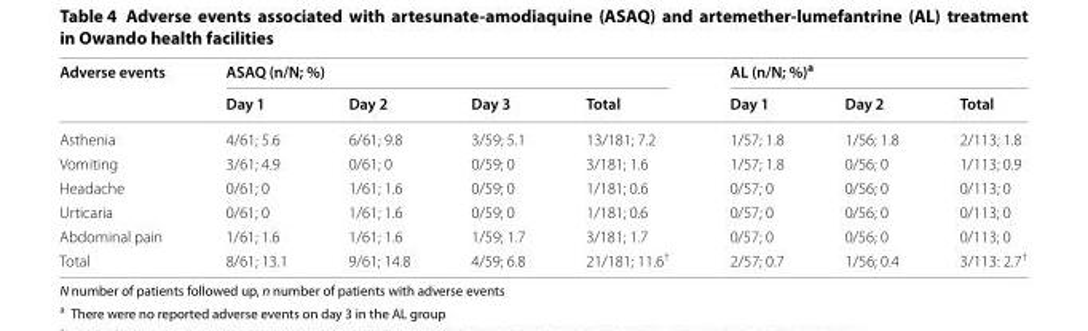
<table><thead><tr><td rowspan="2">Adverse events</td><td colspan="4">ASAQ (n/N; %)</td><td colspan="3">AL (n/N; %)<sup>a</sup></td></tr><tr><td>Day 1</td><td>Day 2</td><td>Day 3</td><td>Total</td><td>Day 1</td><td>Day 2</td><td>Total</td></tr></thead><tbody><tr><td>Asthenia</td><td>4/61; 5.6</td><td>6/61; 9.8</td><td>3/59; 5.1</td><td>13/181; 7.2</td><td>1/57; 1.8</td><td>1/56; 1.8</td><td>2/113; 1.8</td></tr><tr><td>Vomiting</td><td>3/61; 4.9</td><td>0/61; 0</td><td>0/59; 0</td><td>3/181; 1.6</td><td>1/57; 1.8</td><td>0/56; 0</td><td>1/113; 0.9</td></tr><tr><td>Headache</td><td>0/61; 0</td><td>1/61; 1.6</td><td>0/59; 0</td><td>1/181; 0.6</td><td>0/57; 0</td><td>0/56; 0</td><td>0/113; 0</td></tr><tr><td>Urticaria</td><td>0/61; 0</td><td>1/61; 1.6</td><td>0/59; 0</td><td>1/181; 0.6</td><td>0/57; 0</td><td>0/56; 0</td><td>0/113; 0</td></tr><tr><td>Abdominal pain</td><td>1/61; 1.6</td><td>1/61; 1.6</td><td>1/59; 1.7</td><td>3/181; 1.7</td><td>0/57; 0</td><td>0/56; 0</td><td>0/113; 0</td></tr><tr><td>Total</td><td>8/61; 13.1</td><td>9/61; 14.8</td><td>4/59; 6.8</td><td>21/181; 11.6<sup>†</sup></td><td>2/57; 0.7</td><td>1/56; 0.4</td><td>3/113: 2.7<sup>†</sup></td></tr></tbody></table>